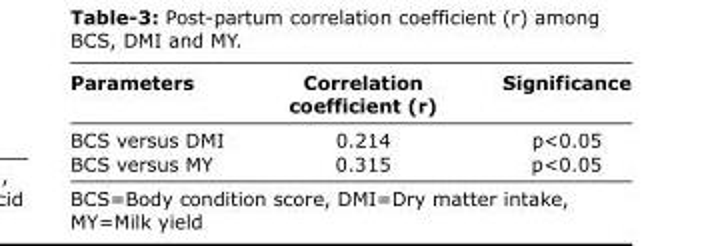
<table><thead><tr><td>Parameters</td><td>Correlation coefficient (r)</td><td>Significance</td></tr></thead><tbody><tr><td>BCS versus DMI</td><td>0.214</td><td>p&lt;0.05</td></tr><tr><td>BCS versus MY</td><td>0.315</td><td>p&lt;0.05</td></tr></tbody></table>